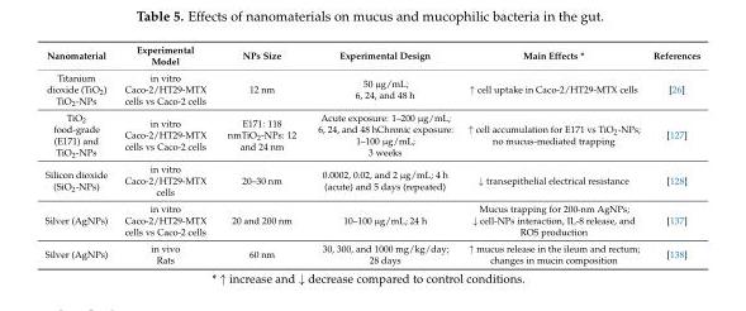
<table><thead><tr><td>Nanomaterial</td><td>Experimental Model</td><td>NPs Size</td><td>Experimental Design</td><td>Main Effects *</td><td>References</td></tr></thead><tbody><tr><td>Titanium dioxide (TiO<sub>2</sub>) TiO<sub>2</sub>-NPs</td><td>in vitro Caco-2/HT29-MTX cells vs Caco-2 cells</td><td>12 nm</td><td>50 µg/mL; 6, 24, and 48 h</td><td>↑ cell uptake in Caco-2/HT29-MTX cells</td><td>[26]</td></tr><tr><td>TiO<sub>2</sub> food-grade (E171) and TiO<sub>2</sub>-NPs</td><td>in vitro Caco-2/HT29-MTX cells vs Caco-2 cells</td><td>E171: 118 nmTiO<sub>2</sub>-NPs: 12 and 24 nm</td><td>Acute exposure: 1–200 µg/mL; 6, 24, and 48 hChronic exposure: 1–100 µg/mL; 3 weeks</td><td>↑ cell accumulation for E171 vs TiO<sub>2</sub>-NPs; no mucus-mediated trapping</td><td>[127]</td></tr><tr><td>Silicon dioxide (SiO<sub>2</sub>-NPs)</td><td>in vitro Caco-2/HT29-MTX cells</td><td>20–30 nm</td><td>0.0002, 0.02, and 2 µg/mL; 4 h (acute) and 5 days (repeated)</td><td>↓ transepithelial electrical resistance</td><td>[128]</td></tr><tr><td>Silver (AgNPs)</td><td>in vitro Caco-2/HT29-MTX cells vs Caco-2 cells</td><td>20 and 200 nm</td><td>10–100 µg/mL; 24 h</td><td>Mucus trapping for 200-nm AgNPs; ↓ cell-NPs interaction, IL-8 release, and ROS production</td><td>[137]</td></tr><tr><td>Silver (AgNPs)</td><td>in vivo Rats</td><td>60 nm</td><td>30, 300, and 1000 mg/kg/day; 28 days</td><td>↑ mucus release in the ileum and rectum; changes in mucin composition</td><td>[138]</td></tr></tbody></table>